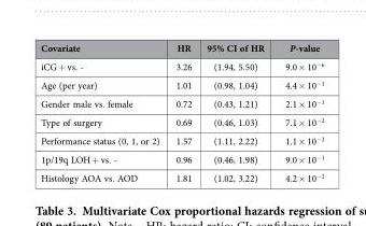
<table><thead><tr><td>Covariate</td><td>HR</td><td>95% CI of HR</td><td>P-value</td></tr></thead><tbody><tr><td>iCG + vs. -</td><td>3.26</td><td>(1.94, 5.50)</td><td>9.0 × 10<sup>−6</sup></td></tr><tr><td>Age (per year)</td><td>1.01</td><td>(0.98, 1.04)</td><td>4.4 × 10<sup>−1</sup></td></tr><tr><td>Gender male vs. female</td><td>0.72</td><td>(0.43, 1.21)</td><td>2.1 × 10<sup>−1</sup></td></tr><tr><td>Type of surgery</td><td>0.69</td><td>(0.46, 1.03)</td><td>7.1 × 10<sup>−2</sup></td></tr><tr><td>Performance status (0, 1, or 2)</td><td>1.57</td><td>(1.11, 2.22)</td><td>1.1 × 10<sup>−2</sup></td></tr><tr><td>1p/19q LOH + vs. -</td><td>0.96</td><td>(0.46, 1.98)</td><td>9.0 × 10<sup>−1</sup></td></tr><tr><td>Histology AOA vs. AOD</td><td>1.81</td><td>(1.02, 3.22)</td><td>4.2 × 10<sup>−2</sup></td></tr></tbody></table>